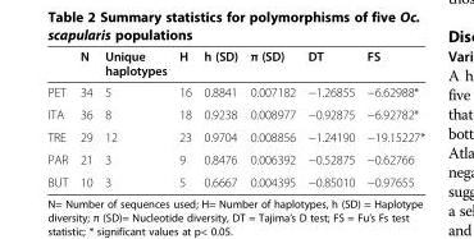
<table><thead><tr><td></td><td>N</td><td>Unique haplotypes</td><td>H</td><td>h (SD)</td><td>π (SD)</td><td>DT</td><td>FS</td></tr></thead><tbody><tr><td>PET</td><td>34</td><td>5</td><td>16</td><td>0.8841</td><td>0.007182</td><td>−1.26855</td><td>−6.62988*</td></tr><tr><td>ITA</td><td>36</td><td>8</td><td>18</td><td>0.9238</td><td>0.008977</td><td>−0.92875</td><td>−6.92782*</td></tr><tr><td>TRE</td><td>29</td><td>12</td><td>23</td><td>0.9704</td><td>0.008856</td><td>−1.24190</td><td>−19.15227*</td></tr><tr><td>PAR</td><td>21</td><td>3</td><td>9</td><td>0.8476</td><td>0.006392</td><td>−0.52875</td><td>−0.62766</td></tr><tr><td>BUT</td><td>10</td><td>3</td><td>5</td><td>0.6667</td><td>0.004395</td><td>−0.85010</td><td>−0.97655</td></tr></tbody></table>